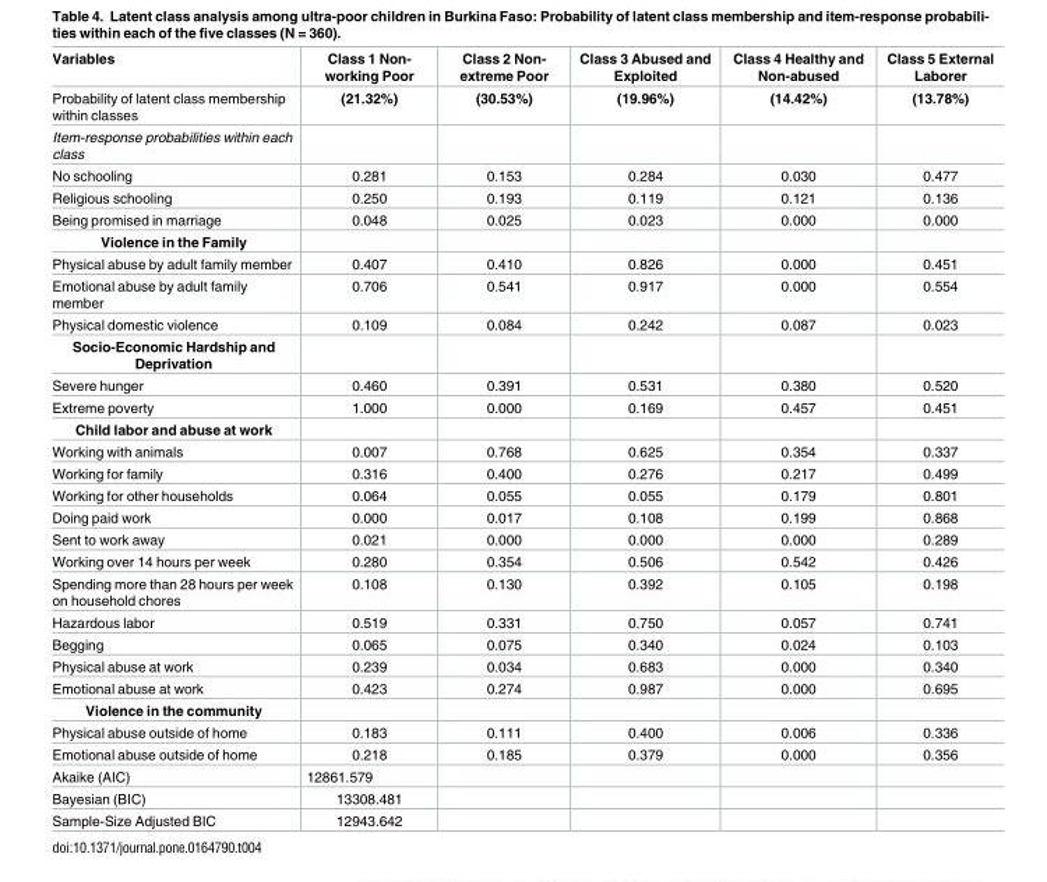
<table><thead><tr><td>Variables</td><td>Class 1 Non- working Poor</td><td>Class 2 Non- extreme Poor</td><td>Class 3 Abused and Exploited</td><td>Class 4 Healthy and Non-abused</td><td>Class 5 External Laborer</td></tr></thead><tbody><tr><td>Probability of latent class membership within classes</td><td>(21.32%)</td><td>(30.53%)</td><td>(19.96%)</td><td>(14.42%)</td><td>(13.78%)</td></tr><tr><td colspan="6">Item-response probabilities within each class</td></tr><tr><td>No schooling</td><td>0.281</td><td>0.153</td><td>0.284</td><td>0.030</td><td>0.477</td></tr><tr><td>Religious schooling</td><td>0.250</td><td>0.193</td><td>0.119</td><td>0.121</td><td>0.136</td></tr><tr><td>Being promised in marriage</td><td>0.048</td><td>0.025</td><td>0.023</td><td>0.000</td><td>0.000</td></tr><tr><td colspan="6">Violence in the Family</td></tr><tr><td>Physical abuse by adult family member</td><td>0.407</td><td>0.410</td><td>0.826</td><td>0.000</td><td>0.451</td></tr><tr><td>Emotional abuse by adult family member</td><td>0.706</td><td>0.541</td><td>0.917</td><td>0.000</td><td>0.554</td></tr><tr><td>Physical domestic violence</td><td>0.109</td><td>0.084</td><td>0.242</td><td>0.087</td><td>0.023</td></tr><tr><td colspan="6">Socio-Economic Hardship and Deprivation</td></tr><tr><td>Severe hunger</td><td>0.460</td><td>0.391</td><td>0.531</td><td>0.380</td><td>0.520</td></tr><tr><td>Extreme poverty</td><td>1.000</td><td>0.000</td><td>0.169</td><td>0.457</td><td>0.451</td></tr><tr><td colspan="6">Child labor and abuse at work</td></tr><tr><td>Working with animals</td><td>0.007</td><td>0.768</td><td>0.625</td><td>0.354</td><td>0.337</td></tr><tr><td>Working for family</td><td>0.316</td><td>0.400</td><td>0.276</td><td>0.217</td><td>0.499</td></tr><tr><td>Working for other households</td><td>0.064</td><td>0.055</td><td>0.055</td><td>0.179</td><td>0.801</td></tr><tr><td>Doing paid work</td><td>0.000</td><td>0.017</td><td>0.108</td><td>0.199</td><td>0.868</td></tr><tr><td>Sent to work away</td><td>0.021</td><td>0.000</td><td>0.000</td><td>0.000</td><td>0.289</td></tr><tr><td>Working over 14 hours per week</td><td>0.280</td><td>0.354</td><td>0.506</td><td>0.542</td><td>0.426</td></tr><tr><td>Spending more than 28 hours per week on household chores</td><td>0.108</td><td>0.130</td><td>0.392</td><td>0.105</td><td>0.198</td></tr><tr><td>Hazardous labor</td><td>0.519</td><td>0.331</td><td>0.750</td><td>0.057</td><td>0.741</td></tr><tr><td>Begging</td><td>0.065</td><td>0.075</td><td>0.340</td><td>0.024</td><td>0.103</td></tr><tr><td>Physical abuse at work</td><td>0.239</td><td>0.034</td><td>0.683</td><td>0.000</td><td>0.340</td></tr><tr><td>Emotional abuse at work</td><td>0.423</td><td>0.274</td><td>0.987</td><td>0.000</td><td>0.695</td></tr><tr><td colspan="6">Violence in the community</td></tr><tr><td>Physical abuse outside of home</td><td>0.183</td><td>0.111</td><td>0.400</td><td>0.006</td><td>0.336</td></tr><tr><td>Emotional abuse outside of home</td><td>0.218</td><td>0.185</td><td>0.379</td><td>0.000</td><td>0.356</td></tr><tr><td>Akaike (AIC)</td><td>12861.579</td><td></td><td></td><td></td><td></td></tr><tr><td>Bayesian (BIC)</td><td>13308.481</td><td></td><td></td><td></td><td></td></tr><tr><td>Sample-Size Adjusted BIC</td><td>12943.642</td><td></td><td></td><td></td><td></td></tr></tbody></table>